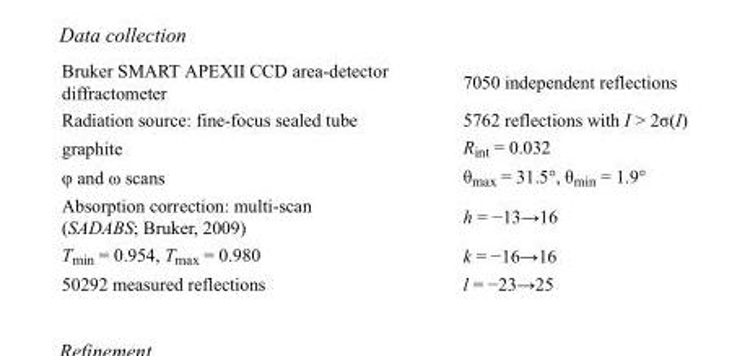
<table><tbody><tr><td>Bruker SMART APEXII CCD area-detector diffractometer</td><td>7050 independent reflections</td></tr><tr><td>Radiation source: fine-focus sealed tube</td><td>5762 reflections with I &gt; 2σ(I)</td></tr><tr><td>graphite</td><td>R<sub>int</sub> = 0.032</td></tr><tr><td>φ and ω scans</td><td>θ<sub>max</sub> = 31.5°, θ<sub>min</sub> = 1.9°</td></tr><tr><td>Absorption correction: multi-scan (SADABS; Bruker, 2009)</td><td>h = −13→16</td></tr><tr><td>T<sub>min</sub> = 0.954, T<sub>max</sub> = 0.980</td><td>k = −16→16</td></tr><tr><td>50292 measured reflections</td><td>l = −23→25</td></tr></tbody></table>